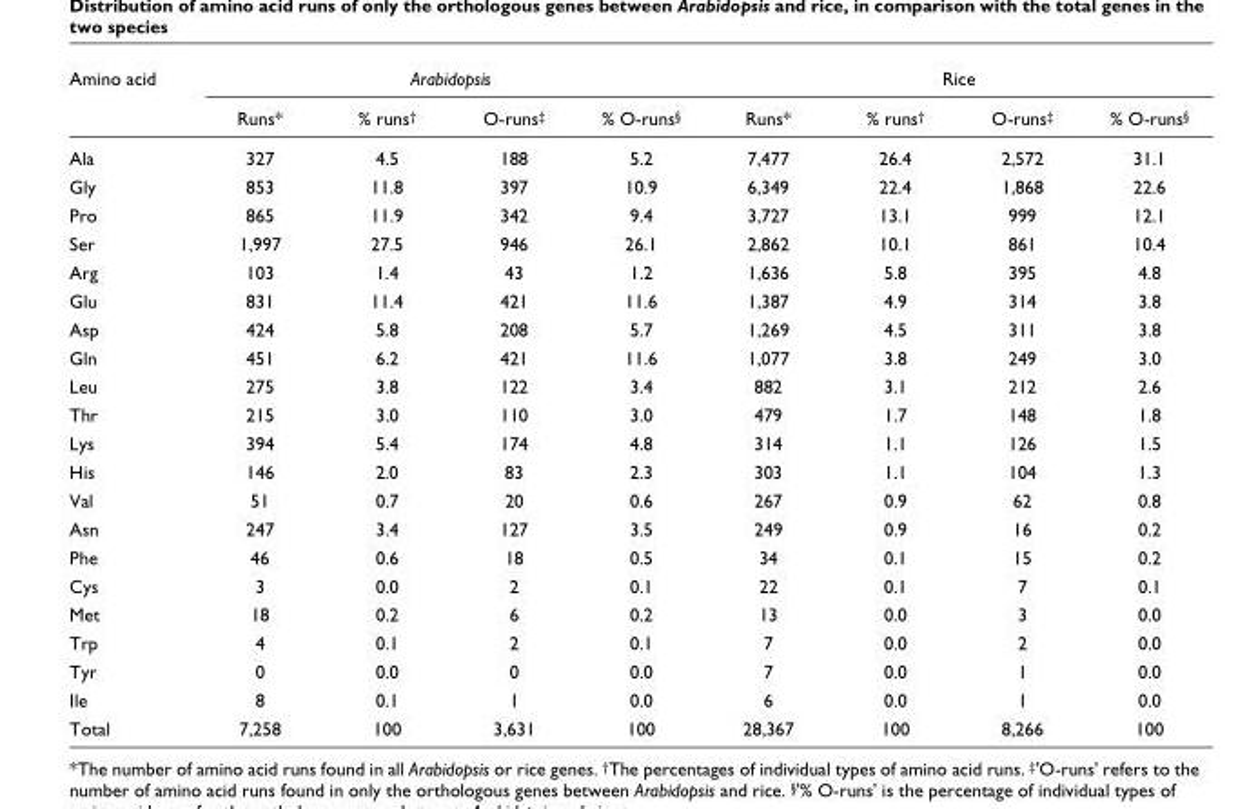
<table><thead><tr><td rowspan="2">Amino acid</td><td colspan="4">Arabidopsis</td><td colspan="4">Rice</td></tr><tr><td>Runs*</td><td>% runs†</td><td>O-runs‡</td><td>% O-runs§</td><td>Runs*</td><td>% runs†</td><td>O-runs‡</td><td>% O-runs§</td></tr></thead><tbody><tr><td>Ala</td><td>327</td><td>4.5</td><td>188</td><td>5.2</td><td>7,477</td><td>26.4</td><td>2,572</td><td>31.1</td></tr><tr><td>Gly</td><td>853</td><td>11.8</td><td>397</td><td>10.9</td><td>6,349</td><td>22.4</td><td>1,868</td><td>22.6</td></tr><tr><td>Pro</td><td>865</td><td>11.9</td><td>342</td><td>9.4</td><td>3,727</td><td>13.1</td><td>999</td><td>12.1</td></tr><tr><td>Ser</td><td>1,997</td><td>27.5</td><td>946</td><td>26.1</td><td>2,862</td><td>10.1</td><td>861</td><td>10.4</td></tr><tr><td>Arg</td><td>103</td><td>1.4</td><td>43</td><td>1.2</td><td>1,636</td><td>5.8</td><td>395</td><td>4.8</td></tr><tr><td>Glu</td><td>831</td><td>11.4</td><td>421</td><td>11.6</td><td>1,387</td><td>4.9</td><td>314</td><td>3.8</td></tr><tr><td>Asp</td><td>424</td><td>5.8</td><td>208</td><td>5.7</td><td>1,269</td><td>4.5</td><td>311</td><td>3.8</td></tr><tr><td>Gln</td><td>451</td><td>6.2</td><td>421</td><td>11.6</td><td>1,077</td><td>3.8</td><td>249</td><td>3.0</td></tr><tr><td>Leu</td><td>275</td><td>3.8</td><td>122</td><td>3.4</td><td>882</td><td>3.1</td><td>212</td><td>2.6</td></tr><tr><td>Thr</td><td>215</td><td>3.0</td><td>110</td><td>3.0</td><td>479</td><td>1.7</td><td>148</td><td>1.8</td></tr><tr><td>Lys</td><td>394</td><td>5.4</td><td>174</td><td>4.8</td><td>314</td><td>1.1</td><td>126</td><td>1.5</td></tr><tr><td>His</td><td>146</td><td>2.0</td><td>83</td><td>2.3</td><td>303</td><td>1.1</td><td>104</td><td>1.3</td></tr><tr><td>Val</td><td>51</td><td>0.7</td><td>20</td><td>0.6</td><td>267</td><td>0.9</td><td>62</td><td>0.8</td></tr><tr><td>Asn</td><td>247</td><td>3.4</td><td>127</td><td>3.5</td><td>249</td><td>0.9</td><td>16</td><td>0.2</td></tr><tr><td>Phe</td><td>46</td><td>0.6</td><td>18</td><td>0.5</td><td>34</td><td>0.1</td><td>15</td><td>0.2</td></tr><tr><td>Cys</td><td>3</td><td>0.0</td><td>2</td><td>0.1</td><td>22</td><td>0.1</td><td>7</td><td>0.1</td></tr><tr><td>Met</td><td>18</td><td>0.2</td><td>6</td><td>0.2</td><td>13</td><td>0.0</td><td>3</td><td>0.0</td></tr><tr><td>Trp</td><td>4</td><td>0.1</td><td>2</td><td>0.1</td><td>7</td><td>0.0</td><td>2</td><td>0.0</td></tr><tr><td>Tyr</td><td>0</td><td>0.0</td><td>0</td><td>0.0</td><td>7</td><td>0.0</td><td>1</td><td>0.0</td></tr><tr><td>Ile</td><td>8</td><td>0.1</td><td>1</td><td>0.0</td><td>6</td><td>0.0</td><td>1</td><td>0.0</td></tr><tr><td>Total</td><td>7,258</td><td>100</td><td>3,631</td><td>100</td><td>28,367</td><td>100</td><td>8,266</td><td>100</td></tr></tbody></table>